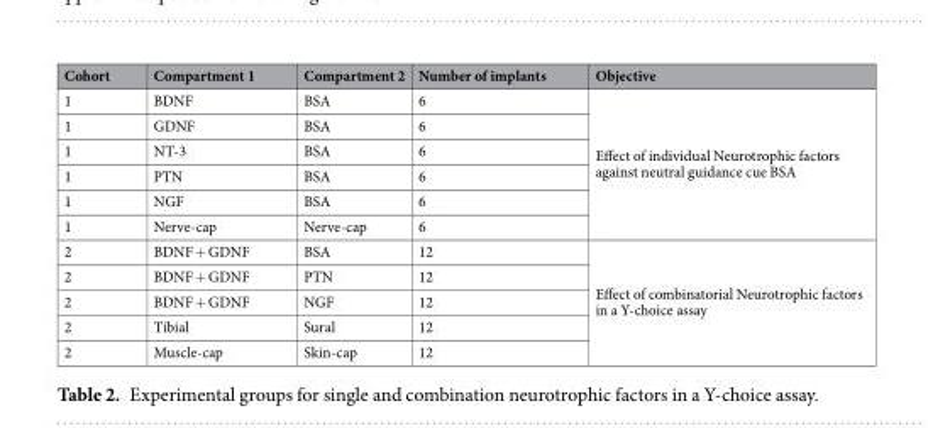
<table><thead><tr><td>Cohort</td><td>Compartment 1</td><td>Compartment 2</td><td>Number of implants</td><td>Objective</td></tr></thead><tbody><tr><td>1</td><td>BDNF</td><td>BSA</td><td>6</td><td rowspan="6">Effect of individual Neurotrophic factors against neutral guidance cue BSA</td></tr><tr><td>1</td><td>GDNF</td><td>BSA</td><td>6</td></tr><tr><td>1</td><td>NT-3</td><td>BSA</td><td>6</td></tr><tr><td>1</td><td>PTN</td><td>BSA</td><td>6</td></tr><tr><td>1</td><td>NGF</td><td>BSA</td><td>6</td></tr><tr><td>1</td><td>Nerve-cap</td><td>Nerve-cap</td><td>6</td></tr><tr><td>2</td><td>BDNF + GDNF</td><td>BSA</td><td>12</td><td rowspan="5">Effect of combinatorial Neurotrophic factors in a Y-choice assay</td></tr><tr><td>2</td><td>BDNF + GDNF</td><td>PTN</td><td>12</td></tr><tr><td>2</td><td>BDNF + GDNF</td><td>NGF</td><td>12</td></tr><tr><td>2</td><td>Tibial</td><td>Sural</td><td>12</td></tr><tr><td>2</td><td>Muscle-cap</td><td>Skin-cap</td><td>12</td></tr></tbody></table>